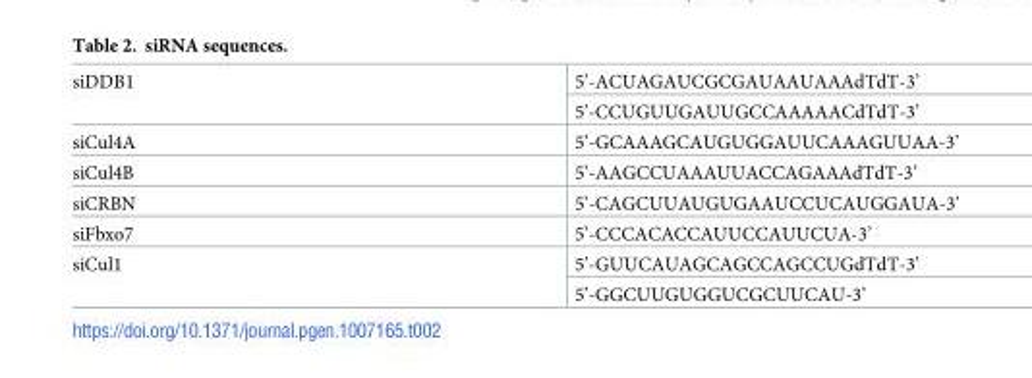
<table><tbody><tr><td rowspan="2">siDDB1</td><td>5’-ACUAGAUCGCGAUAAUAAAdTdT-3’</td></tr><tr><td>5’-CCUGUUGAUUGCCAAAAACdTdT-3’</td></tr><tr><td>siCul4A</td><td>5’-GCAAAGCAUGUGGAUUCAAAGUUAA-3’</td></tr><tr><td>siCul4B</td><td>5’-AAGCCUAAAUUACCAGAAAdTdT-3’</td></tr><tr><td>siCRBN</td><td>5’-CAGCUUAUGUGAAUCCUCAUGGAUA-3’</td></tr><tr><td>siFbxo7</td><td>5’-CCCACACCAUUCCAUUCUA-3’</td></tr><tr><td rowspan="2">siCul1</td><td>5’-GUUCAUAGCAGCCAGCCUGdTdT-3’</td></tr><tr><td>5’-GGCUUGUGGUCGCUUCAU-3’</td></tr></tbody></table>